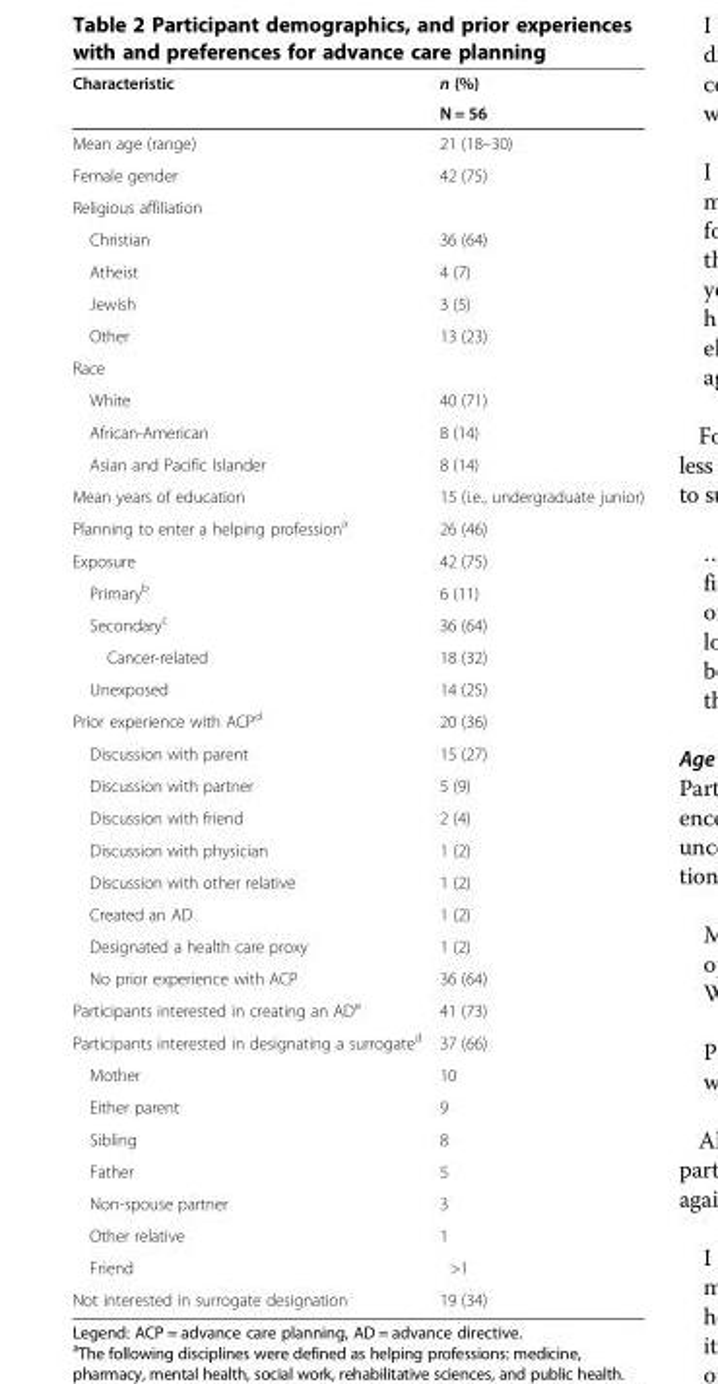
<table><thead><tr><td rowspan="2">Characteristic</td><td rowspan="2">n (%) N = 56</td></tr><tr></tr></thead><tbody><tr><td>Mean age (range)</td><td>21 (18–30)</td></tr><tr><td>Female gender</td><td>42 (75)</td></tr><tr><td colspan="2">Religious affiliation</td></tr><tr><td>Christian</td><td>36 (64)</td></tr><tr><td>Atheist</td><td>4 (7)</td></tr><tr><td>Jewish</td><td>3 (5)</td></tr><tr><td>Other</td><td>13 (23)</td></tr><tr><td colspan="2">Race</td></tr><tr><td>White</td><td>40 (71)</td></tr><tr><td>African-American</td><td>8 (14)</td></tr><tr><td>Asian and Pacific Islander</td><td>8 (14)</td></tr><tr><td>Mean years of education</td><td>15 (i.e., undergraduate junior)</td></tr><tr><td>Planning to enter a helping profession<sup>a</sup></td><td>26 (46)</td></tr><tr><td>Exposure</td><td>42 (75)</td></tr><tr><td>Primary<sup>b</sup></td><td>6 (11)</td></tr><tr><td>Secondary<sup>c</sup></td><td>36 (64)</td></tr><tr><td>Cancer-related</td><td>18 (32)</td></tr><tr><td>Unexposed</td><td>14 (25)</td></tr><tr><td>Prior experience with ACP<sup>d</sup></td><td>20 (36)</td></tr><tr><td>Discussion with parent</td><td>15 (27)</td></tr><tr><td>Discussion with partner</td><td>5 (9)</td></tr><tr><td>Discussion with friend</td><td>2 (4)</td></tr><tr><td>Discussion with physician</td><td>1 (2)</td></tr><tr><td>Discussion with other relative</td><td>1 (2)</td></tr><tr><td>Created an AD</td><td>1 (2)</td></tr><tr><td>Designated a health care proxy</td><td>1 (2)</td></tr><tr><td>No prior experience with ACP</td><td>36 (64)</td></tr><tr><td>Participants interested in creating an AD<sup>e</sup></td><td>41 (73)</td></tr><tr><td>Participants interested in designating a surrogate<sup>d</sup></td><td>37 (66)</td></tr><tr><td>Mother</td><td>10</td></tr><tr><td>Either parent</td><td>9</td></tr><tr><td>Sibling</td><td>8</td></tr><tr><td>Father</td><td>5</td></tr><tr><td>Non-spouse partner</td><td>3</td></tr><tr><td>Other relative</td><td>1</td></tr><tr><td>Friend</td><td>&gt;1</td></tr><tr><td>Not interested in surrogate designation</td><td>19 (34)</td></tr></tbody></table>